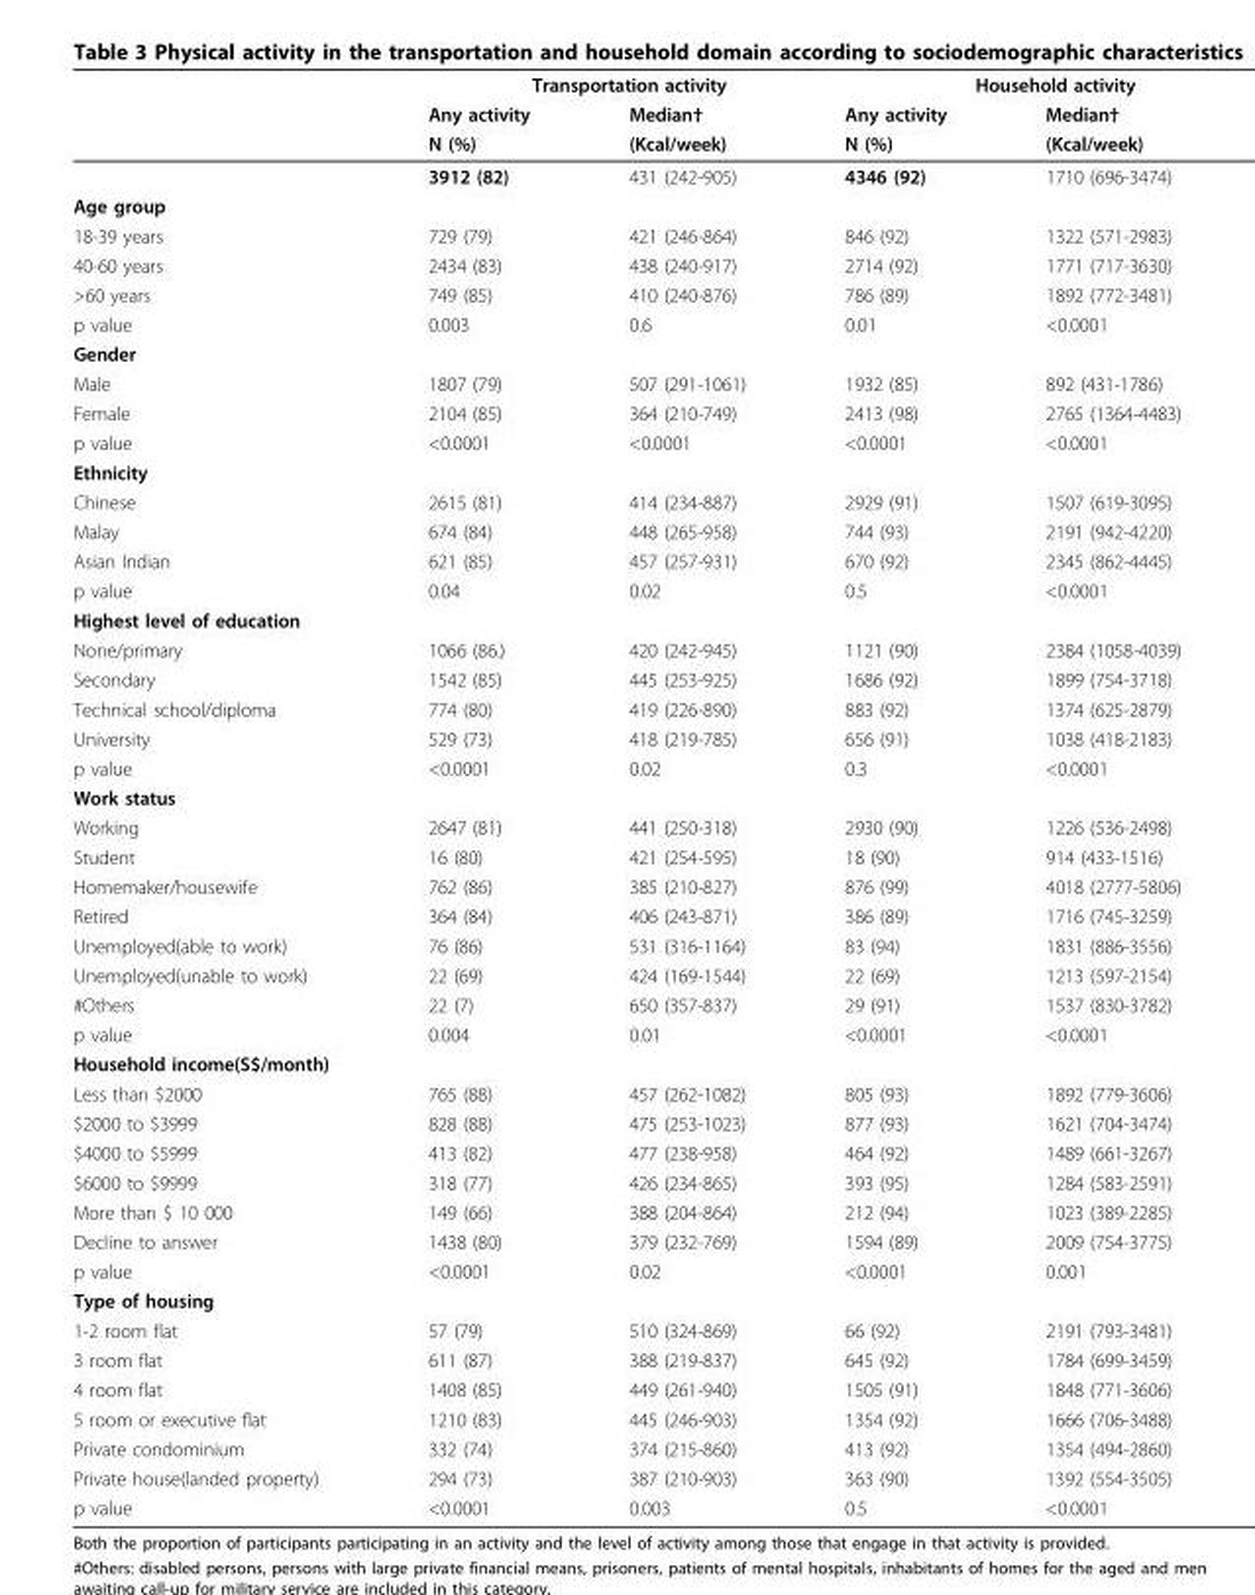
<table><thead><tr><td rowspan="3"></td><td colspan="2">Transportation activity</td><td colspan="2">Household activity</td></tr><tr><td rowspan="2">Any activity N (%)</td><td rowspan="2">Median† (Kcal/week)</td><td rowspan="2">Any activity N (%)</td><td rowspan="2">Median† (Kcal/week)</td></tr><tr></tr></thead><tbody><tr><td></td><td>3912 (82)</td><td>431 (242-905)</td><td>4346 (92)</td><td>1710 (696-3474)</td></tr><tr><td colspan="5">Age group</td></tr><tr><td>18-39 years</td><td>729 (79)</td><td>421 (246-864)</td><td>846 (92)</td><td>1322 (571-2983)</td></tr><tr><td>40-60 years</td><td>2434 (83)</td><td>438 (240-917)</td><td>2714 (92)</td><td>1771 (717-3630)</td></tr><tr><td>&gt;60 years</td><td>749 (85)</td><td>410 (240-876)</td><td>786 (89)</td><td>1892 (772-3481)</td></tr><tr><td>p value</td><td>0.003</td><td>0.6</td><td>0.01</td><td>&lt;0.0001</td></tr><tr><td colspan="5">Gender</td></tr><tr><td>Male</td><td>1807 (79)</td><td>507 (291-1061)</td><td>1932 (85)</td><td>892 (431-1786)</td></tr><tr><td>Female</td><td>2104 (85)</td><td>364 (210-749)</td><td>2413 (98)</td><td>2765 (1364-4483)</td></tr><tr><td>p value</td><td>&lt;0.0001</td><td>&lt;0.0001</td><td>&lt;0.0001</td><td>&lt;0.0001</td></tr><tr><td colspan="5">Ethnicity</td></tr><tr><td>Chinese</td><td>2615 (81)</td><td>414 (234-887)</td><td>2929 (91)</td><td>1507 (619-3095)</td></tr><tr><td>Malay</td><td>674 (84)</td><td>448 (265-958)</td><td>744 (93)</td><td>2191 (942-4220)</td></tr><tr><td>Asian Indian</td><td>621 (85)</td><td>457 (257-931)</td><td>670 (92)</td><td>2345 (862-4445)</td></tr><tr><td>p value</td><td>0.04</td><td>0.02</td><td>0.5</td><td>&lt;0.0001</td></tr><tr><td colspan="5">Highest level of education</td></tr><tr><td>None/primary</td><td>1066 (86.)</td><td>420 (242-945)</td><td>1121 (90)</td><td>2384 (1058-4039)</td></tr><tr><td>Secondary</td><td>1542 (85)</td><td>445 (253-925)</td><td>1686 (92)</td><td>1899 (754-3718)</td></tr><tr><td>Technical school/diploma</td><td>774 (80)</td><td>419 (226-890)</td><td>883 (92)</td><td>1374 (625-2879)</td></tr><tr><td>University</td><td>529 (73)</td><td>418 (219-785)</td><td>656 (91)</td><td>1038 (418-2183)</td></tr><tr><td>p value</td><td>&lt;0.0001</td><td>0.02</td><td>0.3</td><td>&lt;0.0001</td></tr><tr><td colspan="5">Work status</td></tr><tr><td>Working</td><td>2647 (81)</td><td>441 (250-318)</td><td>2930 (90)</td><td>1226 (536-2498)</td></tr><tr><td>Student</td><td>16 (80)</td><td>421 (254-595)</td><td>18 (90)</td><td>914 (433-1516)</td></tr><tr><td>Homemaker/housewife</td><td>762 (86)</td><td>385 (210-827)</td><td>876 (99)</td><td>4018 (2777-5806)</td></tr><tr><td>Retired</td><td>364 (84)</td><td>406 (243-871)</td><td>386 (89)</td><td>1716 (745-3259)</td></tr><tr><td>Unemployed(able to work)</td><td>76 (86)</td><td>531 (316-1164)</td><td>83 (94)</td><td>1831 (886-3556)</td></tr><tr><td>Unemployed(unable to work)</td><td>22 (69)</td><td>424 (169-1544)</td><td>22 (69)</td><td>1213 (597-2154)</td></tr><tr><td>#Others</td><td>22 (7)</td><td>650 (357-837)</td><td>29 (91)</td><td>1537 (830-3782)</td></tr><tr><td>p value</td><td>0.004</td><td>0.01</td><td>&lt;0.0001</td><td>&lt;0.0001</td></tr><tr><td colspan="5">Household income(S$/month)</td></tr><tr><td>Less than $2000</td><td>765 (88)</td><td>457 (262-1082)</td><td>805 (93)</td><td>1892 (779-3606)</td></tr><tr><td>$2000 to $3999</td><td>828 (88)</td><td>475 (253-1023)</td><td>877 (93)</td><td>1621 (704-3474)</td></tr><tr><td>$4000 to $5999</td><td>413 (82)</td><td>477 (238-958)</td><td>464 (92)</td><td>1489 (661-3267)</td></tr><tr><td>$6000 to $9999</td><td>318 (77)</td><td>426 (234-865)</td><td>393 (95)</td><td>1284 (583-2591)</td></tr><tr><td>More than $ 10 000</td><td>149 (66)</td><td>388 (204-864)</td><td>212 (94)</td><td>1023 (389-2285)</td></tr><tr><td>Decline to answer</td><td>1438 (80)</td><td>379 (232-769)</td><td>1594 (89)</td><td>2009 (754-3775)</td></tr><tr><td>p value</td><td>&lt;0.0001</td><td>0.02</td><td>&lt;0.0001</td><td>0.001</td></tr><tr><td colspan="5">Type of housing</td></tr><tr><td>1-2 room flat</td><td>57 (79)</td><td>510 (324-869)</td><td>66 (92)</td><td>2191 (793-3481)</td></tr><tr><td>3 room flat</td><td>611 (87)</td><td>388 (219-837)</td><td>645 (92)</td><td>1784 (699-3459)</td></tr><tr><td>4 room flat</td><td>1408 (85)</td><td>449 (261-940)</td><td>1505 (91)</td><td>1848 (771-3606)</td></tr><tr><td>5 room or executive flat</td><td>1210 (83)</td><td>445 (246-903)</td><td>1354 (92)</td><td>1666 (706-3488)</td></tr><tr><td>Private condominium</td><td>332 (74)</td><td>374 (215-860)</td><td>413 (92)</td><td>1354 (494-2860)</td></tr><tr><td>Private house(landed property)</td><td>294 (73)</td><td>387 (210-903)</td><td>363 (90)</td><td>1392 (554-3505)</td></tr><tr><td>p value</td><td>&lt;0.0001</td><td>0.003</td><td>0.5</td><td>&lt;0.0001</td></tr></tbody></table>